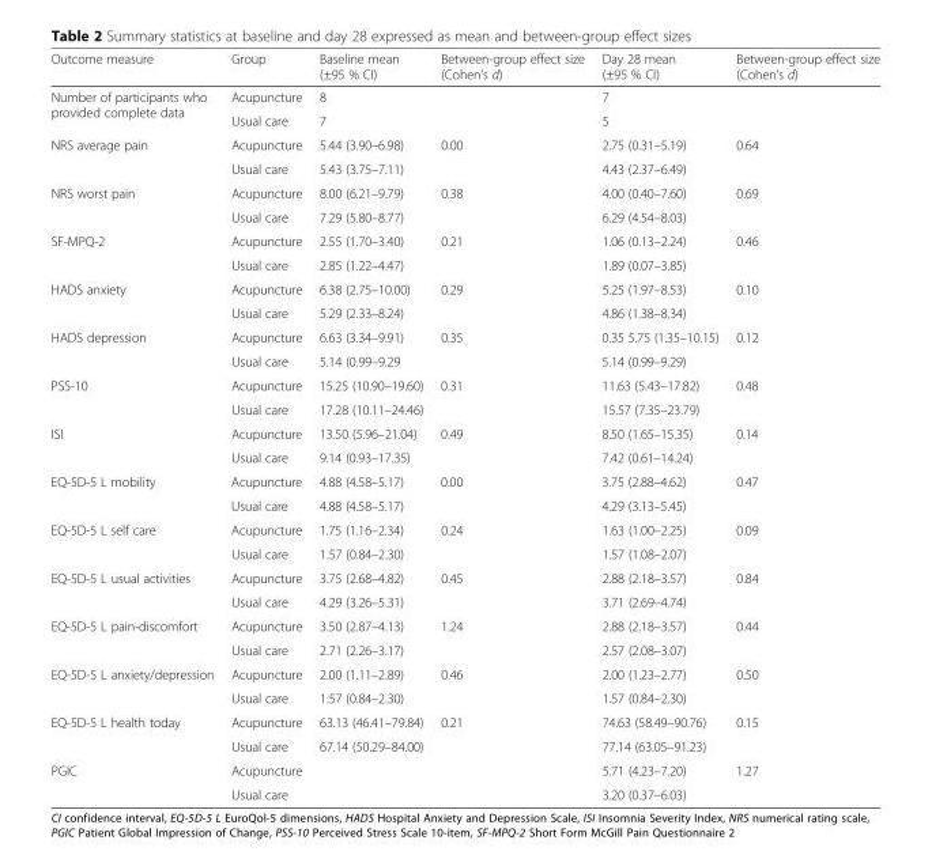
<table><thead><tr><td>Outcome measure</td><td>Group</td><td>Baseline mean (±95 % CI)</td><td>Between-group effect size (Cohen’s d)</td><td>Day 28 mean (±95 % CI)</td><td>Between-group effect size (Cohen’s d)</td></tr></thead><tbody><tr><td rowspan="2">Number of participants who provided complete data</td><td>Acupuncture</td><td>8</td><td></td><td>7</td><td></td></tr><tr><td>Usual care</td><td>7</td><td></td><td>5</td><td></td></tr><tr><td rowspan="2">NRS average pain</td><td>Acupuncture</td><td>5.44 (3.90–6.98)</td><td rowspan="2">0.00</td><td>2.75 (0.31–5.19)</td><td rowspan="2">0.64</td></tr><tr><td>Usual care</td><td>5.43 (3.75–7.11)</td><td>4.43 (2.37–6.49)</td></tr><tr><td rowspan="2">NRS worst pain</td><td>Acupuncture</td><td>8.00 (6.21–9.79)</td><td rowspan="2">0.38</td><td>4.00 (0.40–7.60)</td><td rowspan="2">0.69</td></tr><tr><td>Usual care</td><td>7.29 (5.80–8.77)</td><td>6.29 (4.54–8.03)</td></tr><tr><td rowspan="2">SF-MPQ-2</td><td>Acupuncture</td><td>2.55 (1.70–3.40)</td><td rowspan="2">0.21</td><td>1.06 (0.13–2.24)</td><td rowspan="2">0.46</td></tr><tr><td>Usual care</td><td>2.85 (1.22–4.47)</td><td>1.89 (0.07–3.85)</td></tr><tr><td rowspan="2">HADS anxiety</td><td>Acupuncture</td><td>6.38 (2.75–10.00)</td><td rowspan="2">0.29</td><td>5.25 (1.97–8.53)</td><td rowspan="2">0.10</td></tr><tr><td>Usual care</td><td>5.29 (2.33–8.24)</td><td>4.86 (1.38–8.34)</td></tr><tr><td rowspan="2">HADS depression</td><td>Acupuncture</td><td>6.63 (3.34–9.91)</td><td rowspan="2">0.35</td><td>0.35 5.75 (1.35–10.15)</td><td rowspan="2">0.12</td></tr><tr><td>Usual care</td><td>5.14 (0.99–9.29</td><td>5.14 (0.99–9.29)</td></tr><tr><td rowspan="2">PSS-10</td><td>Acupuncture</td><td>15.25 (10.90–19.60)</td><td rowspan="2">0.31</td><td>11.63 (5.43–17.82)</td><td rowspan="2">0.48</td></tr><tr><td>Usual care</td><td>17.28 (10.11–24.46)</td><td>15.57 (7.35–23.79)</td></tr><tr><td rowspan="2">ISI</td><td>Acupuncture</td><td>13.50 (5.96–21.04)</td><td rowspan="2">0.49</td><td>8.50 (1.65–15.35)</td><td rowspan="2">0.14</td></tr><tr><td>Usual care</td><td>9.14 (0.93–17.35)</td><td>7.42 (0.61–14.24)</td></tr><tr><td rowspan="2">EQ-5D-5 L mobility</td><td>Acupuncture</td><td>4.88 (4.58–5.17)</td><td rowspan="2">0.00</td><td>3.75 (2.88–4.62)</td><td rowspan="2">0.47</td></tr><tr><td>Usual care</td><td>4.88 (4.58–5.17)</td><td>4.29 (3.13–5.45)</td></tr><tr><td rowspan="2">EQ-5D-5 L self care</td><td>Acupuncture</td><td>1.75 (1.16–2.34)</td><td rowspan="2">0.24</td><td>1.63 (1.00–2.25)</td><td rowspan="2">0.09</td></tr><tr><td>Usual care</td><td>1.57 (0.84–2.30)</td><td>1.57 (1.08–2.07)</td></tr><tr><td rowspan="2">EQ-5D-5 L usual activities</td><td>Acupuncture</td><td>3.75 (2.68–4.82)</td><td rowspan="2">0.45</td><td>2.88 (2.18–3.57)</td><td rowspan="2">0.84</td></tr><tr><td>Usual care</td><td>4.29 (3.26–5.31)</td><td>3.71 (2.69–4.74)</td></tr><tr><td rowspan="2">EQ-5D-5 L pain-discomfort</td><td>Acupuncture</td><td>3.50 (2.87–4.13)</td><td rowspan="2">1.24</td><td>2.88 (2.18–3.57)</td><td rowspan="2">0.44</td></tr><tr><td>Usual care</td><td>2.71 (2.26–3.17)</td><td>2.57 (2.08–3.07)</td></tr><tr><td rowspan="2">EQ-5D-5 L anxiety/depression</td><td>Acupuncture</td><td>2.00 (1.11–2.89)</td><td rowspan="2">0.46</td><td>2.00 (1.23–2.77)</td><td rowspan="2">0.50</td></tr><tr><td>Usual care</td><td>1.57 (0.84–2.30)</td><td>1.57 (0.84–2.30)</td></tr><tr><td rowspan="2">EQ-5D-5 L health today</td><td>Acupuncture</td><td>63.13 (46.41–79.84)</td><td rowspan="2">0.21</td><td>74.63 (58.49–90.76)</td><td rowspan="2">0.15</td></tr><tr><td>Usual care</td><td>67.14 (50.29–84.00)</td><td>77.14 (63.05–91.23)</td></tr><tr><td rowspan="2">PGIC</td><td>Acupuncture</td><td></td><td></td><td>5.71 (4.23–7.20)</td><td rowspan="2">1.27</td></tr><tr><td>Usual care</td><td></td><td></td><td>3.20 (0.37–6.03)</td></tr></tbody></table>